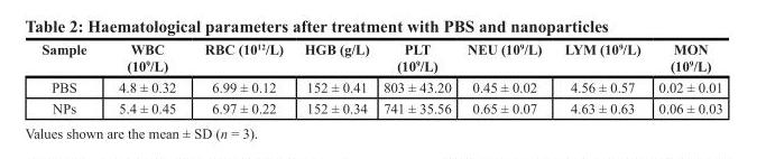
<table><thead><tr><td>Sample</td><td>WBC (10<sup>9</sup>/L)</td><td>RBC (10<sup>12</sup>/L)</td><td>HGB (g/L)</td><td>PLT (10<sup>9</sup>/L)</td><td>NEU (10<sup>9</sup>/L)</td><td>LYM (10<sup>9</sup>/L)</td><td>MON (10<sup>9</sup>/L)</td></tr></thead><tbody><tr><td>PBS</td><td>4.8 ± 0.32</td><td>6.99 ± 0.12</td><td>152 ± 0.41</td><td>803 ± 43.20</td><td>0.45 ± 0.02</td><td>4.56 ± 0.57</td><td>0.02 ± 0.01</td></tr><tr><td>NPs</td><td>5.4 ± 0.45</td><td>6.97 ± 0.22</td><td>152 ± 0.34</td><td>741 ± 35.56</td><td>0.65 ± 0.07</td><td>4.63 ± 0.63</td><td>0.06 ± 0.03</td></tr></tbody></table>